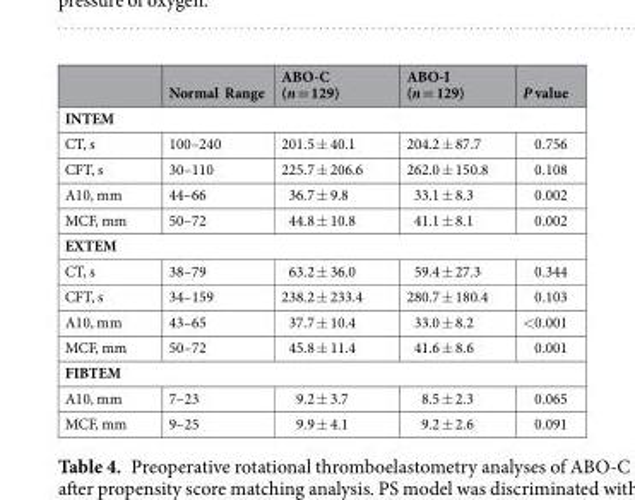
<table><thead><tr><td></td><td>Normal Range</td><td>ABO-C (n = 129)</td><td>ABO-I (n = 129)</td><td>P value</td></tr></thead><tbody><tr><td colspan="5">INTEM</td></tr><tr><td>CT, s</td><td>100–240</td><td>201.5 ± 40.1</td><td>204.2 ± 87.7</td><td>0.756</td></tr><tr><td>CFT, s</td><td>30–110</td><td>225.7 ± 206.6</td><td>262.0 ± 150.8</td><td>0.108</td></tr><tr><td>A10, mm</td><td>44–66</td><td>36.7 ± 9.8</td><td>33.1 ± 8.3</td><td>0.002</td></tr><tr><td>MCF, mm</td><td>50–72</td><td>44.8 ± 10.8</td><td>41.1 ± 8.1</td><td>0.002</td></tr><tr><td colspan="5">EXTEM</td></tr><tr><td>CT, s</td><td>38–79</td><td>63.2 ± 36.0</td><td>59.4 ± 27.3</td><td>0.344</td></tr><tr><td>CFT, s</td><td>34–159</td><td>238.2 ± 233.4</td><td>280.7 ± 180.4</td><td>0.103</td></tr><tr><td>A10, mm</td><td>43–65</td><td>37.7 ± 10.4</td><td>33.0 ± 8.2</td><td>&lt;0.001</td></tr><tr><td>MCF, mm</td><td>50–72</td><td>45.8 ± 11.4</td><td>41.6 ± 8.6</td><td>0.001</td></tr><tr><td colspan="5">FIBTEM</td></tr><tr><td>A10, mm</td><td>7–23</td><td>9.2 ± 3.7</td><td>8.5 ± 2.3</td><td>0.065</td></tr><tr><td>MCF, mm</td><td>9–25</td><td>9.9 ± 4.1</td><td>9.2 ± 2.6</td><td>0.091</td></tr></tbody></table>